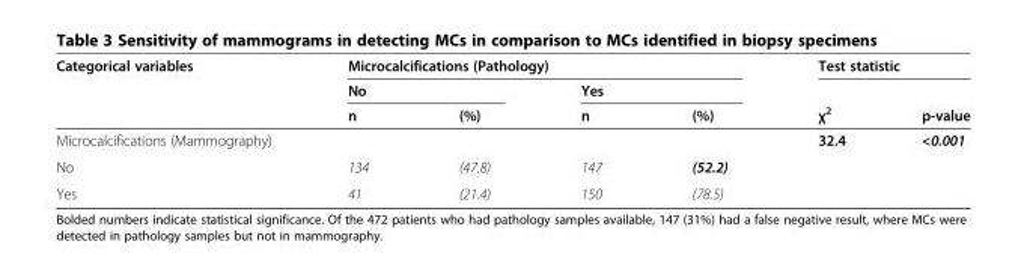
<table><thead><tr><td rowspan="3">Categorical variables</td><td colspan="4">Microcalcifications (Pathology)</td><td colspan="2">Test statistic</td></tr><tr><td colspan="2">No</td><td colspan="2">Yes</td><td rowspan="2">χ<sup>2</sup></td><td rowspan="2">p-value</td></tr><tr><td>n</td><td>(%)</td><td>n</td><td>(%)</td></tr></thead><tbody><tr><td>Microcalcifications (Mammography)</td><td></td><td></td><td></td><td></td><td>32.4</td><td>&lt;0.001</td></tr><tr><td>No</td><td>134</td><td>(47.8)</td><td>147</td><td>(52.2)</td><td></td><td></td></tr><tr><td>Yes</td><td>41</td><td>(21.4)</td><td>150</td><td>(78.5)</td><td></td><td></td></tr></tbody></table>